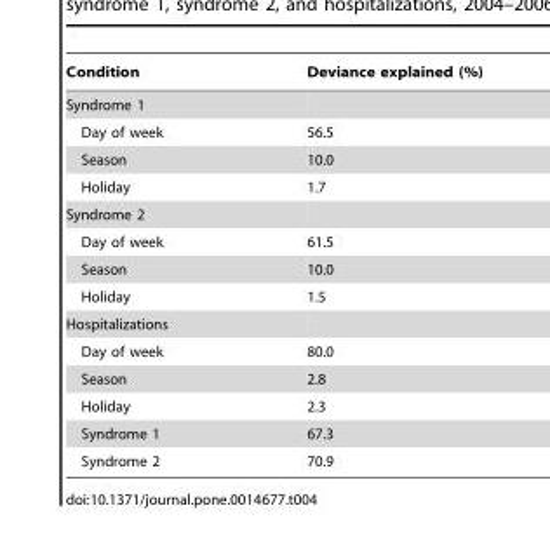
<table><thead><tr><td>Condition</td><td>Deviance explained (%)</td></tr></thead><tbody><tr><td colspan="2">Syndrome 1</td></tr><tr><td>Day of week</td><td>56.5</td></tr><tr><td>Season</td><td>10.0</td></tr><tr><td>Holiday</td><td>1.7</td></tr><tr><td colspan="2">Syndrome 2</td></tr><tr><td>Day of week</td><td>61.5</td></tr><tr><td>Season</td><td>10.0</td></tr><tr><td>Holiday</td><td>1.5</td></tr><tr><td colspan="2">Hospitalizations</td></tr><tr><td>Day of week</td><td>80.0</td></tr><tr><td>Season</td><td>2.8</td></tr><tr><td>Holiday</td><td>2.3</td></tr><tr><td>Syndrome 1</td><td>67.3</td></tr><tr><td>Syndrome 2</td><td>70.9</td></tr></tbody></table>